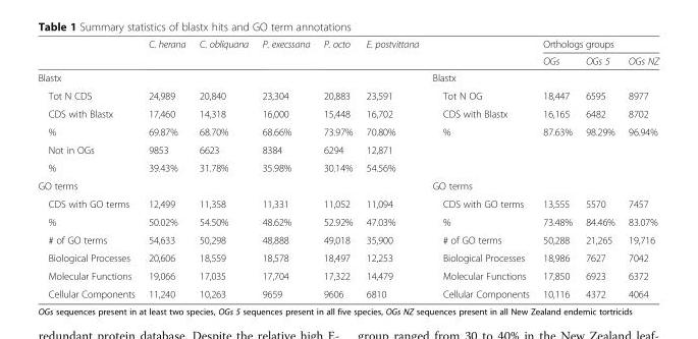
<table><thead><tr><td rowspan="2"></td><td rowspan="2">C. herana</td><td rowspan="2">C. obliquana</td><td rowspan="2">P. execssana</td><td rowspan="2">P. octo</td><td rowspan="2">E. postvittana</td><td rowspan="2"></td><td colspan="3">Orthologs groups</td></tr><tr><td>OGs</td><td>OGs 5</td><td>OGs NZ</td></tr></thead><tbody><tr><td colspan="6">Blastx</td><td colspan="4">Blastx</td></tr><tr><td>Tot N CDS</td><td>24,989</td><td>20,840</td><td>23,304</td><td>20,883</td><td>23,591</td><td>Tot N OG</td><td>18,447</td><td>6595</td><td>8977</td></tr><tr><td>CDS with Blastx</td><td>17,460</td><td>14,318</td><td>16,000</td><td>15,448</td><td>16,702</td><td>CDS with Blastx</td><td>16,165</td><td>6482</td><td>8702</td></tr><tr><td>%</td><td>69.87%</td><td>68.70%</td><td>68.66%</td><td>73.97%</td><td>70.80%</td><td>%</td><td>87.63%</td><td>98.29%</td><td>96.94%</td></tr><tr><td>Not in OGs</td><td>9853</td><td>6623</td><td>8384</td><td>6294</td><td>12,871</td><td></td><td></td><td></td><td></td></tr><tr><td>%</td><td>39.43%</td><td>31.78%</td><td>35.98%</td><td>30.14%</td><td>54.56%</td><td></td><td></td><td></td><td></td></tr><tr><td colspan="6">GO terms</td><td colspan="4">GO terms</td></tr><tr><td>CDS with GO terms</td><td>12,499</td><td>11,358</td><td>11,331</td><td>11,052</td><td>11,094</td><td>CDS with GO terms</td><td>13,555</td><td>5570</td><td>7457</td></tr><tr><td>%</td><td>50.02%</td><td>54.50%</td><td>48.62%</td><td>52.92%</td><td>47.03%</td><td>%</td><td>73.48%</td><td>84.46%</td><td>83.07%</td></tr><tr><td># of GO terms</td><td>54,633</td><td>50,298</td><td>48,888</td><td>49,018</td><td>35,900</td><td># of GO terms</td><td>50,288</td><td>21,265</td><td>19,716</td></tr><tr><td>Biological Processes</td><td>20,606</td><td>18,559</td><td>18,578</td><td>18,497</td><td>12,253</td><td>Biological Processes</td><td>18,986</td><td>7627</td><td>7042</td></tr><tr><td>Molecular Functions</td><td>19,066</td><td>17,035</td><td>17,704</td><td>17,322</td><td>14,479</td><td>Molecular Functions</td><td>17,850</td><td>6923</td><td>6372</td></tr><tr><td>Cellular Components</td><td>11,240</td><td>10,263</td><td>9659</td><td>9606</td><td>6810</td><td>Cellular Components</td><td>10,116</td><td>4372</td><td>4064</td></tr></tbody></table>